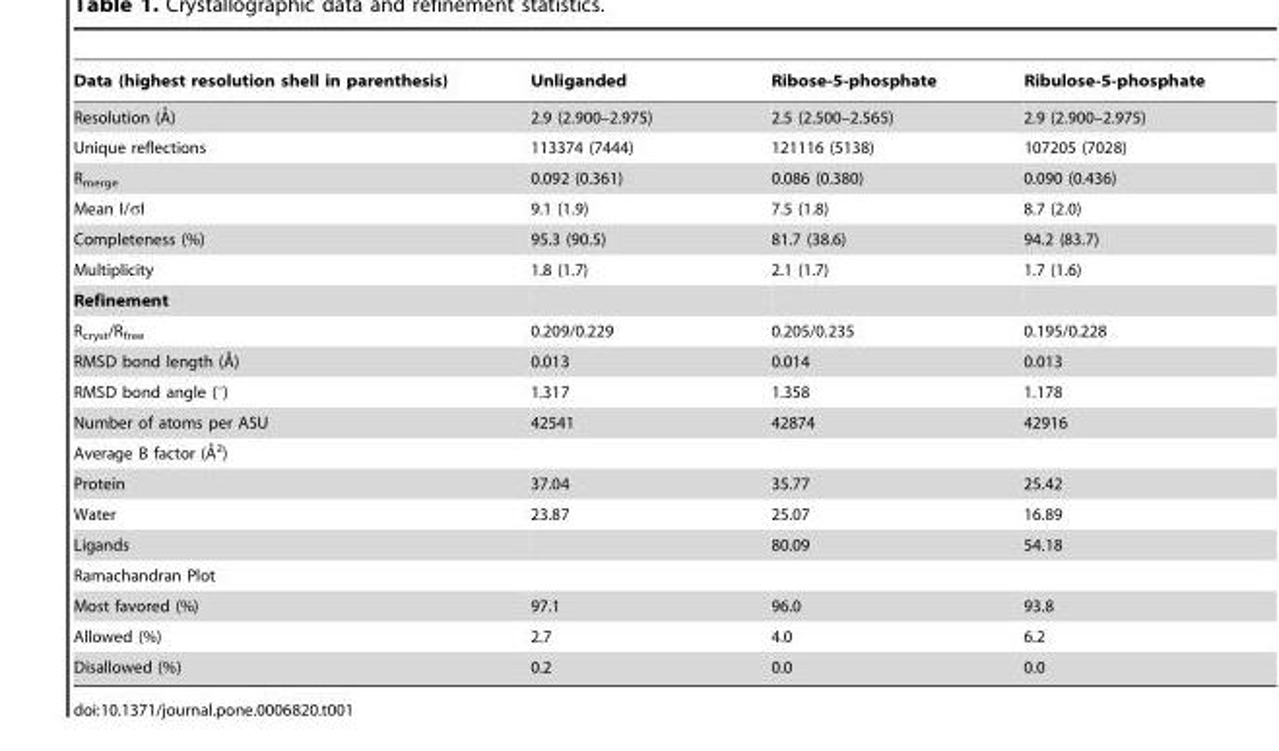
<table><thead><tr><td>Data (highest resolution shell in parenthesis)</td><td>Unliganded</td><td>Ribose-5-phosphate</td><td>Ribulose-5-phosphate</td></tr></thead><tbody><tr><td>Resolution (A˚)</td><td>2.9 (2.900–2.975)</td><td>2.5 (2.500–2.565)</td><td>2.9 (2.900–2.975)</td></tr><tr><td>Unique reflections</td><td>113374 (7444)</td><td>121116 (5138)</td><td>107205 (7028)</td></tr><tr><td>R<sub>merge</sub></td><td>0.092 (0.361)</td><td>0.086 (0.380)</td><td>0.090 (0.436)</td></tr><tr><td>Mean I/σI</td><td>9.1 (1.9)</td><td>7.5 (1.8)</td><td>8.7 (2.0)</td></tr><tr><td>Completeness (%)</td><td>95.3 (90.5)</td><td>81.7 (38.6)</td><td>94.2 (83.7)</td></tr><tr><td>Multiplicity</td><td>1.8 (1.7)</td><td>2.1 (1.7)</td><td>1.7 (1.6)</td></tr><tr><td colspan="4">Refinement</td></tr><tr><td>R<sub>cryst</sub>/R<sub>free</sub></td><td>0.209/0.229</td><td>0.205/0.235</td><td>0.195/0.228</td></tr><tr><td>RMSD bond length (A˚)</td><td>0.013</td><td>0.014</td><td>0.013</td></tr><tr><td>RMSD bond angle (°)</td><td>1.317</td><td>1.358</td><td>1.178</td></tr><tr><td>Number of atoms per ASU</td><td>42541</td><td>42874</td><td>42916</td></tr><tr><td colspan="4">Average B factor (A˚2)</td></tr><tr><td>Protein</td><td>37.04</td><td>35.77</td><td>25.42</td></tr><tr><td>Water</td><td>23.87</td><td>25.07</td><td>16.89</td></tr><tr><td>Ligands</td><td></td><td>80.09</td><td>54.18</td></tr><tr><td colspan="4">Ramachandran Plot</td></tr><tr><td>Most favored (%)</td><td>97.1</td><td>96.0</td><td>93.8</td></tr><tr><td>Allowed (%)</td><td>2.7</td><td>4.0</td><td>6.2</td></tr><tr><td>Disallowed (%)</td><td>0.2</td><td>0.0</td><td>0.0</td></tr></tbody></table>